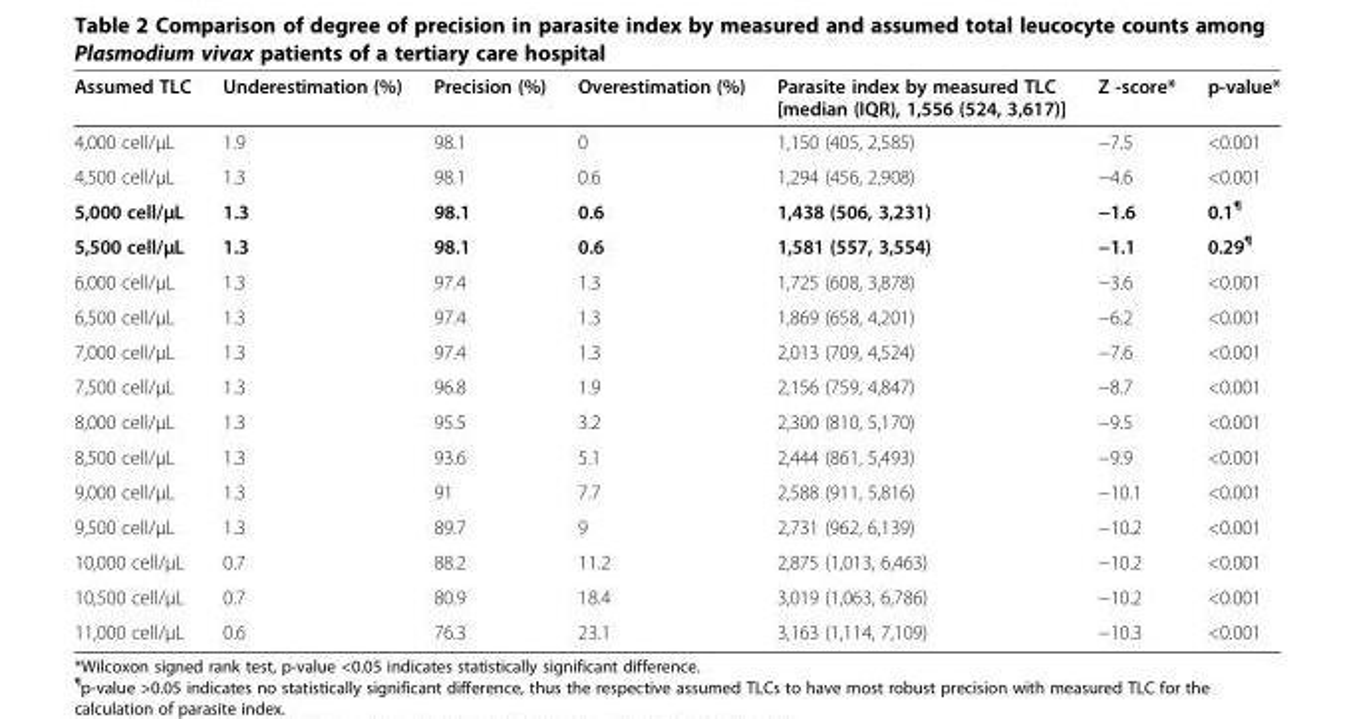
<table><thead><tr><td>Assumed TLC</td><td>Underestimation (%)</td><td>Precision (%)</td><td>Overestimation (%)</td><td>Parasite index by measured TLC [median (IQR), 1,556 (524, 3,617)]</td><td>Z -score*</td><td>p-value*</td></tr></thead><tbody><tr><td>4,000 cell/μL</td><td>1.9</td><td>98.1</td><td>0</td><td>1,150 (405, 2,585)</td><td>−7.5</td><td>&lt;0.001</td></tr><tr><td>4,500 cell/μL</td><td>1.3</td><td>98.1</td><td>0.6</td><td>1,294 (456, 2,908)</td><td>−4.6</td><td>&lt;0.001</td></tr><tr><td>5,000 cell/μL</td><td>1.3</td><td>98.1</td><td>0.6</td><td>1,438 (506, 3,231)</td><td>−1.6</td><td>0.1<sup>¶</sup></td></tr><tr><td>5,500 cell/μL</td><td>1.3</td><td>98.1</td><td>0.6</td><td>1,581 (557, 3,554)</td><td>−1.1</td><td>0.29<sup>¶</sup></td></tr><tr><td>6,000 cell/μL</td><td>1.3</td><td>97.4</td><td>1.3</td><td>1,725 (608, 3,878)</td><td>−3.6</td><td>&lt;0.001</td></tr><tr><td>6,500 cell/μL</td><td>1.3</td><td>97.4</td><td>1.3</td><td>1,869 (658, 4,201)</td><td>−6.2</td><td>&lt;0.001</td></tr><tr><td>7,000 cell/μL</td><td>1.3</td><td>97.4</td><td>1.3</td><td>2,013 (709, 4,524)</td><td>−7.6</td><td>&lt;0.001</td></tr><tr><td>7,500 cell/μL</td><td>1.3</td><td>96.8</td><td>1.9</td><td>2,156 (759, 4,847)</td><td>−8.7</td><td>&lt;0.001</td></tr><tr><td>8,000 cell/μL</td><td>1.3</td><td>95.5</td><td>3.2</td><td>2,300 (810, 5,170)</td><td>−9.5</td><td>&lt;0.001</td></tr><tr><td>8,500 cell/μL</td><td>1.3</td><td>93.6</td><td>5.1</td><td>2,444 (861, 5,493)</td><td>−9.9</td><td>&lt;0.001</td></tr><tr><td>9,000 cell/μL</td><td>1.3</td><td>91</td><td>7.7</td><td>2,588 (911, 5,816)</td><td>−10.1</td><td>&lt;0.001</td></tr><tr><td>9,500 cell/μL</td><td>1.3</td><td>89.7</td><td>9</td><td>2,731 (962, 6,139)</td><td>−10.2</td><td>&lt;0.001</td></tr><tr><td>10,000 cell/μL</td><td>0.7</td><td>88.2</td><td>11.2</td><td>2,875 (1,013, 6,463)</td><td>−10.2</td><td>&lt;0.001</td></tr><tr><td>10,500 cell/μL</td><td>0.7</td><td>80.9</td><td>18.4</td><td>3,019 (1,063, 6,786)</td><td>−10.2</td><td>&lt;0.001</td></tr><tr><td>11,000 cell/μL</td><td>0.6</td><td>76.3</td><td>23.1</td><td>3,163 (1,114, 7,109)</td><td>−10.3</td><td>&lt;0.001</td></tr></tbody></table>